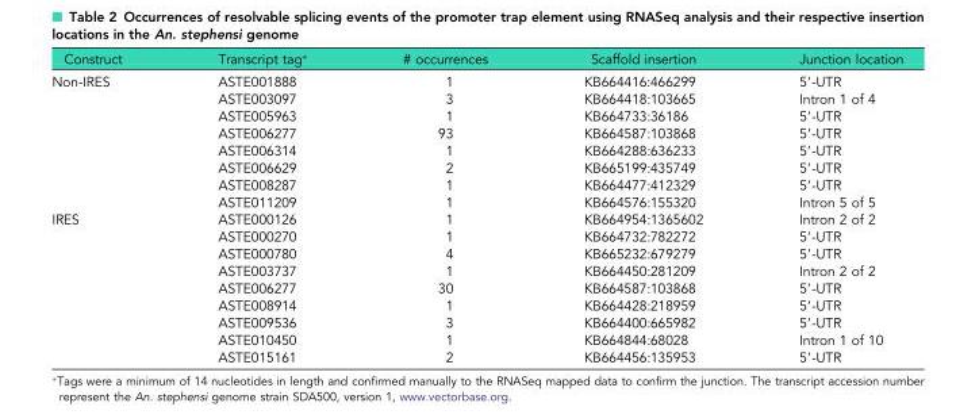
<table><thead><tr><td>Construct</td><td>Transcript tag*</td><td># occurrences</td><td>Scaffold insertion</td><td>Junction location</td></tr></thead><tbody><tr><td rowspan="8">Non-IRES</td><td>ASTE001888</td><td>1</td><td>KB664416:466299</td><td>5′-UTR</td></tr><tr><td>ASTE003097</td><td>3</td><td>KB664418:103665</td><td>Intron 1 of 4</td></tr><tr><td>ASTE005963</td><td>1</td><td>KB664733:36186</td><td>5′-UTR</td></tr><tr><td>ASTE006277</td><td>93</td><td>KB664587:103868</td><td>5′-UTR</td></tr><tr><td>ASTE006314</td><td>1</td><td>KB664288:636233</td><td>5′-UTR</td></tr><tr><td>ASTE006629</td><td>2</td><td>KB665199:435749</td><td>5′-UTR</td></tr><tr><td>ASTE008287</td><td>1</td><td>KB664477:412329</td><td>5′-UTR</td></tr><tr><td>ASTE011209</td><td>1</td><td>KB664576:155320</td><td>Intron 5 of 5</td></tr><tr><td rowspan="9">IRES</td><td>ASTE000126</td><td>1</td><td>KB664954:1365602</td><td>Intron 2 of 2</td></tr><tr><td>ASTE000270</td><td>1</td><td>KB664732:782272</td><td>5′-UTR</td></tr><tr><td>ASTE000780</td><td>4</td><td>KB665232:679279</td><td>5′-UTR</td></tr><tr><td>ASTE003737</td><td>1</td><td>KB664450:281209</td><td>Intron 2 of 2</td></tr><tr><td>ASTE006277</td><td>30</td><td>KB664587:103868</td><td>5′-UTR</td></tr><tr><td>ASTE008914</td><td>1</td><td>KB664428:218959</td><td>5′-UTR</td></tr><tr><td>ASTE009536</td><td>3</td><td>KB664400:665982</td><td>5′-UTR</td></tr><tr><td>ASTE010450</td><td>1</td><td>KB664844:68028</td><td>Intron 1 of 10</td></tr><tr><td>ASTE015161</td><td>2</td><td>KB664456:135953</td><td>5′-UTR</td></tr></tbody></table>